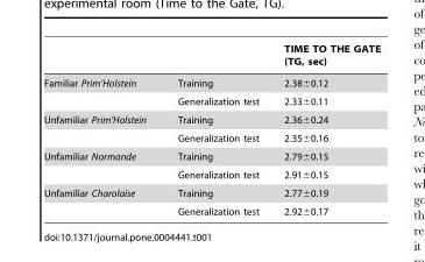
<table><thead><tr><td></td><td></td><td>TIME TO THE GATE (TG, sec)</td></tr></thead><tbody><tr><td rowspan="2">Familiar Prim’Holstein</td><td>Training</td><td>2.38±0.12</td></tr><tr><td>Generalization test</td><td>2.33±0.11</td></tr><tr><td rowspan="2">Unfamiliar Prim’Holstein</td><td>Training</td><td>2.36±0.24</td></tr><tr><td>Generalization test</td><td>2.35±0.16</td></tr><tr><td rowspan="2">Unfamiliar Normande</td><td>Training</td><td>2.79±0.15</td></tr><tr><td>Generalization test</td><td>2.91±0.15</td></tr><tr><td rowspan="2">Unfamiliar Charolaise</td><td>Training</td><td>2.77±0.19</td></tr><tr><td>Generalization test</td><td>2.92±0.17</td></tr></tbody></table>